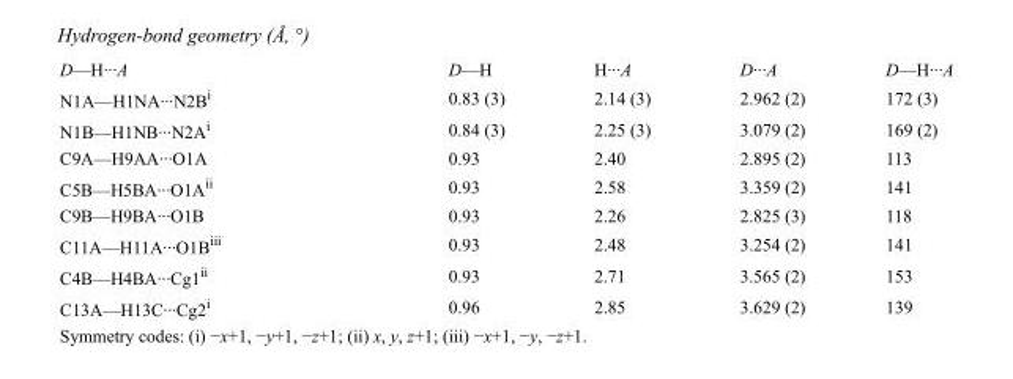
<table><tbody><tr><td>D—H···A</td><td>D—H</td><td>H···A</td><td>D···A</td><td>D—H···A</td></tr><tr><td>N1A—H1NA···N2B<sup>i</sup></td><td>0.83 (3)</td><td>2.14 (3)</td><td>2.962 (2)</td><td>172 (3)</td></tr><tr><td>N1B—H1NB···N2A<sup>i</sup></td><td>0.84 (3)</td><td>2.25 (3)</td><td>3.079 (2)</td><td>169 (2)</td></tr><tr><td>C9A—H9AA···O1A</td><td>0.93</td><td>2.40</td><td>2.895 (2)</td><td>113</td></tr><tr><td>C5B—H5BA···O1A<sup>ii</sup></td><td>0.93</td><td>2.58</td><td>3.359 (2)</td><td>141</td></tr><tr><td>C9B—H9BA···O1B</td><td>0.93</td><td>2.26</td><td>2.825 (3)</td><td>118</td></tr><tr><td>C11A—H11A···O1B<sup>iii</sup></td><td>0.93</td><td>2.48</td><td>3.254 (2)</td><td>141</td></tr><tr><td>C4B—H4BA···Cg1<sup>ii</sup></td><td>0.93</td><td>2.71</td><td>3.565 (2)</td><td>153</td></tr><tr><td>C13A—H13C···Cg2<sup>i</sup></td><td>0.96</td><td>2.85</td><td>3.629 (2)</td><td>139</td></tr></tbody></table>